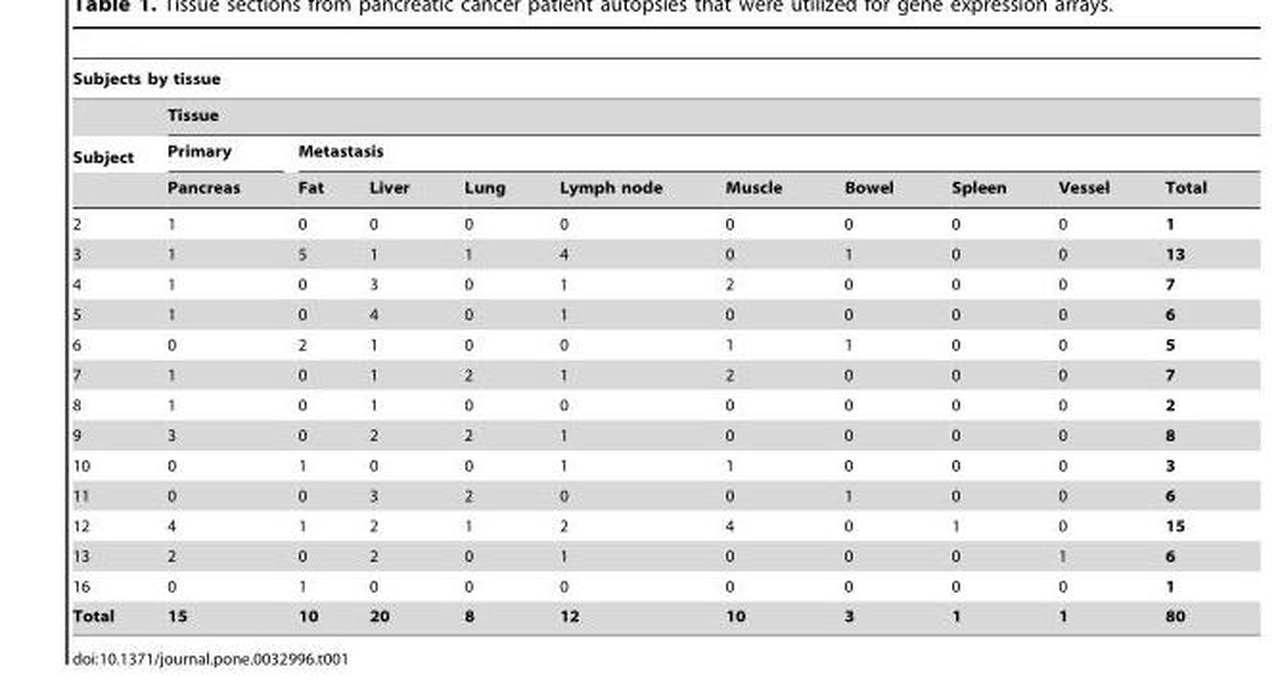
<table><thead><tr><td colspan="11">Subjects by tissue</td></tr><tr><td rowspan="3">Subject</td><td colspan="10">Tissue</td></tr><tr><td rowspan="2">Primary Pancreas</td><td colspan="9">Metastasis</td></tr><tr><td>Fat</td><td>Liver</td><td>Lung</td><td>Lymph node</td><td>Muscle</td><td>Bowel</td><td>Spleen</td><td>Vessel</td><td>Total</td></tr></thead><tbody><tr><td>2</td><td>1</td><td>0</td><td>0</td><td>0</td><td>0</td><td>0</td><td>0</td><td>0</td><td>0</td><td>1</td></tr><tr><td>3</td><td>1</td><td>5</td><td>1</td><td>1</td><td>4</td><td>0</td><td>1</td><td>0</td><td>0</td><td>13</td></tr><tr><td>4</td><td>1</td><td>0</td><td>3</td><td>0</td><td>1</td><td>2</td><td>0</td><td>0</td><td>0</td><td>7</td></tr><tr><td>5</td><td>1</td><td>0</td><td>4</td><td>0</td><td>1</td><td>0</td><td>0</td><td>0</td><td>0</td><td>6</td></tr><tr><td>6</td><td>0</td><td>2</td><td>1</td><td>0</td><td>0</td><td>1</td><td>1</td><td>0</td><td>0</td><td>5</td></tr><tr><td>7</td><td>1</td><td>0</td><td>1</td><td>2</td><td>1</td><td>2</td><td>0</td><td>0</td><td>0</td><td>7</td></tr><tr><td>8</td><td>1</td><td>0</td><td>1</td><td>0</td><td>0</td><td>0</td><td>0</td><td>0</td><td>0</td><td>2</td></tr><tr><td>9</td><td>3</td><td>0</td><td>2</td><td>2</td><td>1</td><td>0</td><td>0</td><td>0</td><td>0</td><td>8</td></tr><tr><td>10</td><td>0</td><td>1</td><td>0</td><td>0</td><td>1</td><td>1</td><td>0</td><td>0</td><td>0</td><td>3</td></tr><tr><td>11</td><td>0</td><td>0</td><td>3</td><td>2</td><td>0</td><td>0</td><td>1</td><td>0</td><td>0</td><td>6</td></tr><tr><td>12</td><td>4</td><td>1</td><td>2</td><td>1</td><td>2</td><td>4</td><td>0</td><td>1</td><td>0</td><td>15</td></tr><tr><td>13</td><td>2</td><td>0</td><td>2</td><td>0</td><td>1</td><td>0</td><td>0</td><td>0</td><td>1</td><td>6</td></tr><tr><td>16</td><td>0</td><td>1</td><td>0</td><td>0</td><td>0</td><td>0</td><td>0</td><td>0</td><td>0</td><td>1</td></tr><tr><td>Total</td><td>15</td><td>10</td><td>20</td><td>8</td><td>12</td><td>10</td><td>3</td><td>1</td><td>1</td><td>80</td></tr></tbody></table>